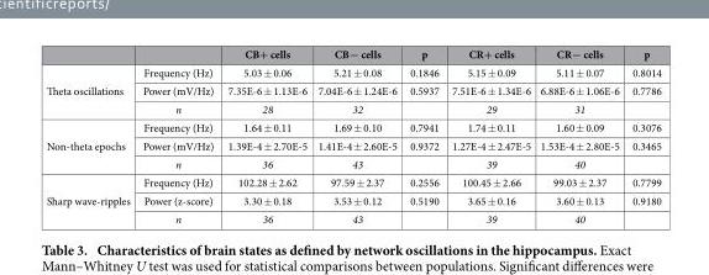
<table><thead><tr><td></td><td></td><td>CB+ cells</td><td>CB− cells</td><td>p</td><td>CR+ cells</td><td>CR− cells</td><td>p</td></tr></thead><tbody><tr><td rowspan="3">Theta oscillations</td><td>Frequency (Hz)</td><td>5.03 ± 0.06</td><td>5.21 ± 0.08</td><td>0.1846</td><td>5.15 ± 0.09</td><td>5.11 ± 0.07</td><td>0.8014</td></tr><tr><td>Power (mV/Hz)</td><td>7.35E-6 ± 1.13E-6</td><td>7.04E-6 ± 1.24E-6</td><td>0.5937</td><td>7.51E-6 ± 1.34E-6</td><td>6.88E-6 ± 1.06E-6</td><td>0.7786</td></tr><tr><td>n</td><td>28</td><td>32</td><td></td><td>29</td><td>31</td><td></td></tr><tr><td rowspan="3">Non-theta epochs</td><td>Frequency (Hz)</td><td>1.64 ± 0.11</td><td>1.69 ± 0.10</td><td>0.7941</td><td>1.74 ± 0.11</td><td>1.60 ± 0.09</td><td>0.3076</td></tr><tr><td>Power (mV/Hz)</td><td>1.39E-4 ± 2.70E-5</td><td>1.41E-4 ± 2.60E-5</td><td>0.9372</td><td>1.27E-4 ± 2.47E-5</td><td>1.53E-4 ± 2.80E-5</td><td>0.3465</td></tr><tr><td>n</td><td>36</td><td>43</td><td></td><td>39</td><td>40</td><td></td></tr><tr><td rowspan="3">Sharp wave-ripples</td><td>Frequency (Hz)</td><td>102.28 ± 2.62</td><td>97.59 ± 2.37</td><td>0.2556</td><td>100.45 ± 2.66</td><td>99.03 ± 2.37</td><td>0.7799</td></tr><tr><td>Power (z-score)</td><td>3.30 ± 0.18</td><td>3.53 ± 0.12</td><td>0.5190</td><td>3.65 ± 0.16</td><td>3.60 ± 0.13</td><td>0.9180</td></tr><tr><td>n</td><td>36</td><td>43</td><td></td><td>39</td><td>40</td><td></td></tr></tbody></table>